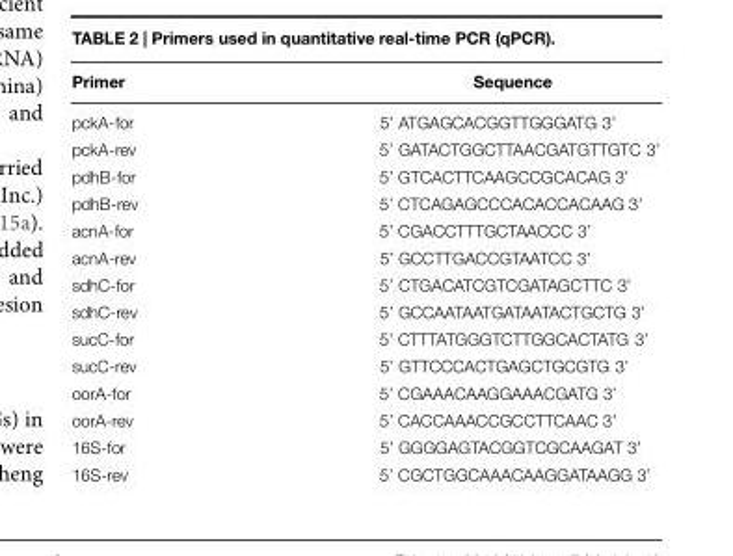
<table><thead><tr><td>Primer</td><td>Sequence</td></tr></thead><tbody><tr><td>pckA-for</td><td>5’ ATGAGCACGGTTGGGATG 3’</td></tr><tr><td>pckA-rev</td><td>5’ GATACTGGCTTAACGATGTTGTC 3’</td></tr><tr><td>pdhB-for</td><td>5’ GTCACTTCAAGCCGCACAG 3’</td></tr><tr><td>pdhB-rev</td><td>5’ CTCAGAGCCCACACCACAAG 3’</td></tr><tr><td>acnA-for</td><td>5’ CGACCTTTGCTAACCC 3’</td></tr><tr><td>acnA-rev</td><td>5’ GCCTTGACCGTAATCC 3’</td></tr><tr><td>sdhC-for</td><td>5’ CTGACATCGTCGATAGCTTC 3’</td></tr><tr><td>sdhC-rev</td><td>5’ GCCAATAATGATAATACTGCTG 3’</td></tr><tr><td>sucC-for</td><td>5’ CTTTATGGGTCTTGGCACTATG 3’</td></tr><tr><td>sucC-rev</td><td>5’ GTTCCCACTGAGCTGCGTG 3’</td></tr><tr><td>oorA-for</td><td>5’ CGAAACAAGGAAACGATG 3’</td></tr><tr><td>oorA-rev</td><td>5’ CACCAAACCGCCTTCAAC 3’</td></tr><tr><td>16S-for</td><td>5’ GGGGAGTACGGTCGCAAGAT 3’</td></tr><tr><td>16S-rev</td><td>5’ CGCTGGCAAACAAGGATAAGG 3’</td></tr></tbody></table>